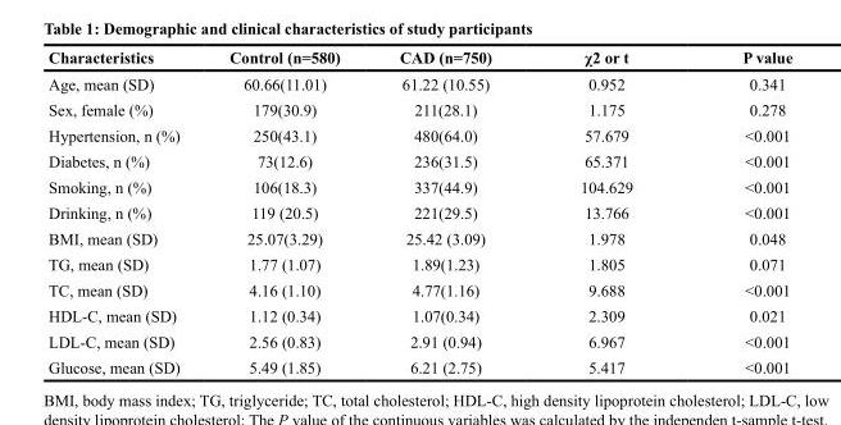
<table><thead><tr><td>Characteristics</td><td>Control (n=580)</td><td>CAD (n=750)</td><td>χ2 or t</td><td>P value</td></tr></thead><tbody><tr><td>Age, mean (SD)</td><td>60.66(11.01)</td><td>61.22 (10.55)</td><td>0.952</td><td>0.341</td></tr><tr><td>Sex, female (%)</td><td>179(30.9)</td><td>211(28.1)</td><td>1.175</td><td>0.278</td></tr><tr><td>Hypertension, n (%)</td><td>250(43.1)</td><td>480(64.0)</td><td>57.679</td><td>&lt;0.001</td></tr><tr><td>Diabetes, n (%)</td><td>73(12.6)</td><td>236(31.5)</td><td>65.371</td><td>&lt;0.001</td></tr><tr><td>Smoking, n (%)</td><td>106(18.3)</td><td>337(44.9)</td><td>104.629</td><td>&lt;0.001</td></tr><tr><td>Drinking, n (%)</td><td>119 (20.5)</td><td>221(29.5)</td><td>13.766</td><td>&lt;0.001</td></tr><tr><td>BMI, mean (SD)</td><td>25.07(3.29)</td><td>25.42 (3.09)</td><td>1.978</td><td>0.048</td></tr><tr><td>TG, mean (SD)</td><td>1.77 (1.07)</td><td>1.89(1.23)</td><td>1.805</td><td>0.071</td></tr><tr><td>TC, mean (SD)</td><td>4.16 (1.10)</td><td>4.77(1.16)</td><td>9.688</td><td>&lt;0.001</td></tr><tr><td>HDL-C, mean (SD)</td><td>1.12 (0.34)</td><td>1.07(0.34)</td><td>2.309</td><td>0.021</td></tr><tr><td>LDL-C, mean (SD)</td><td>2.56 (0.83)</td><td>2.91 (0.94)</td><td>6.967</td><td>&lt;0.001</td></tr><tr><td>Glucose, mean (SD)</td><td>5.49 (1.85)</td><td>6.21 (2.75)</td><td>5.417</td><td>&lt;0.001</td></tr></tbody></table>